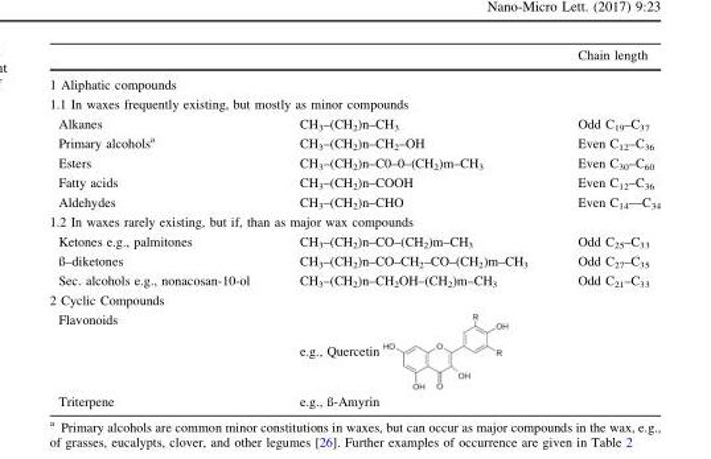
<table><thead><tr><td></td><td></td><td>Chain length</td></tr></thead><tbody><tr><td colspan="3">1 Aliphatic compounds</td></tr><tr><td colspan="3">1.1 In waxes frequently existing, but mostly as minor compounds</td></tr><tr><td>Alkanes</td><td>CH<sub>3</sub>–(CH<sub>2</sub>)n–CH<sub>3</sub></td><td>Odd C<sub>19</sub>–C<sub>37</sub></td></tr><tr><td>Primary alcohols<sup>a</sup></td><td>CH<sub>3</sub>–(CH<sub>2</sub>)n–CH<sub>2</sub>–OH</td><td>Even C<sub>12</sub>–C<sub>36</sub></td></tr><tr><td>Esters</td><td>CH<sub>3</sub>–(CH<sub>2</sub>)n–C0–0–(CH<sub>2</sub>)m–CH<sub>3</sub></td><td>Even C<sub>30</sub>–C<sub>60</sub></td></tr><tr><td>Fatty acids</td><td>CH<sub>3</sub>–(CH<sub>2</sub>)n–COOH</td><td>Even C<sub>12</sub>–C<sub>36</sub></td></tr><tr><td>Aldehydes</td><td>CH<sub>3</sub>–(CH<sub>2</sub>)n–CHO</td><td>Even C<sub>14</sub>––C<sub>34</sub></td></tr><tr><td colspan="3">1.2 In waxes rarely existing, but if, than as major wax compounds</td></tr><tr><td>Ketones e.g., palmitones</td><td>CH<sub>3</sub>–(CH<sub>2</sub>)n–CO–(CH<sub>2</sub>)m–CH<sub>3</sub></td><td>Odd C<sub>25</sub>–C<sub>33</sub></td></tr><tr><td>ß–diketones</td><td>CH<sub>3</sub>–(CH<sub>2</sub>)n–CO–CH<sub>2</sub>–CO–(CH<sub>2</sub>)m–CH<sub>3</sub></td><td>Odd C<sub>27</sub>–C<sub>35</sub></td></tr><tr><td>Sec. alcohols e.g., nonacosan-10-ol</td><td>CH<sub>3</sub>–(CH<sub>2</sub>)n–CH<sub>2</sub>OH–(CH<sub>2</sub>)m–CH<sub>3</sub></td><td>Odd C<sub>21</sub>–C<sub>33</sub></td></tr><tr><td colspan="3">2 Cyclic Compounds</td></tr><tr><td>Flavonoids</td><td>e.g., Quercetin</td><td></td></tr><tr><td>Triterpene</td><td>e.g., ß-Amyrin</td><td></td></tr></tbody></table>